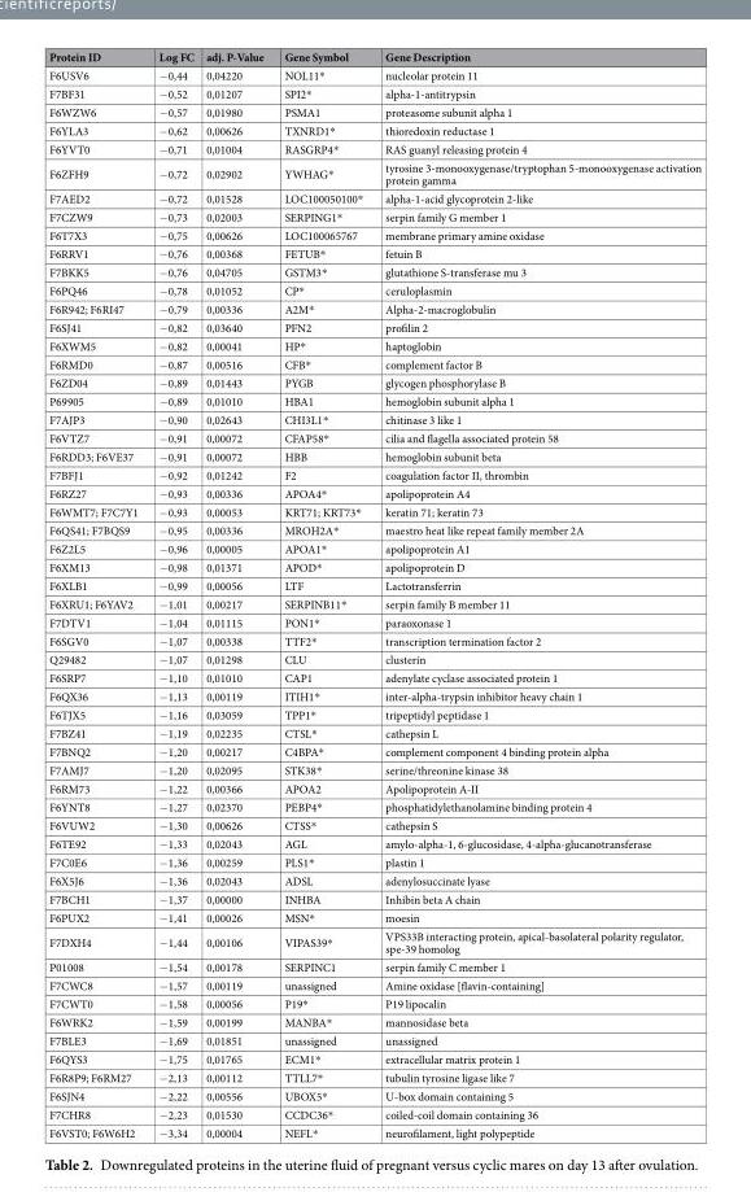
<table><thead><tr><td>Protein ID</td><td>Log FC</td><td>adj. P-Value</td><td>Gene Symbol</td><td>Gene Description</td></tr></thead><tbody><tr><td>F6USV6</td><td>−0,44</td><td>0,04220</td><td>NOL11*</td><td>nucleolar protein 11</td></tr><tr><td>F7BF31</td><td>−0,52</td><td>0,01207</td><td>SPI2*</td><td>alpha-1-antitrypsin</td></tr><tr><td>F6WZW6</td><td>−0,57</td><td>0,01980</td><td>PSMA1</td><td>proteasome subunit alpha 1</td></tr><tr><td>F6YLA3</td><td>−0,62</td><td>0,00626</td><td>TXNRD1*</td><td>thioredoxin reductase 1</td></tr><tr><td>F6YVT0</td><td>−0,71</td><td>0,01004</td><td>RASGRP4*</td><td>RAS guanyl releasing protein 4</td></tr><tr><td>F6ZFH9</td><td>−0,72</td><td>0,02902</td><td>YWHAG*</td><td>tyrosine 3-monooxygenase/tryptophan 5-monooxygenase activation protein gamma</td></tr><tr><td>F7AED2</td><td>−0,72</td><td>0,01528</td><td>LOC100050100*</td><td>alpha-1-acid glycoprotein 2-like</td></tr><tr><td>F7CZW9</td><td>−0,73</td><td>0,02003</td><td>SERPING1*</td><td>serpin family G member 1</td></tr><tr><td>F6T7X3</td><td>−0,75</td><td>0,00626</td><td>LOC100065767</td><td>membrane primary amine oxidase</td></tr><tr><td>F6RRV1</td><td>−0,76</td><td>0,00368</td><td>FETUB*</td><td>fetuin B</td></tr><tr><td>F7BKK5</td><td>−0,76</td><td>0,04705</td><td>GSTM3*</td><td>glutathione S-transferase mu 3</td></tr><tr><td>F6PQ46</td><td>−0,78</td><td>0,01052</td><td>CP*</td><td>ceruloplasmin</td></tr><tr><td>F6R942; F6RI47</td><td>−0,79</td><td>0,00336</td><td>A2M*</td><td>Alpha-2-macroglobulin</td></tr><tr><td>F6SJ41</td><td>−0,82</td><td>0,03640</td><td>PFN2</td><td>profilin 2</td></tr><tr><td>F6XWM5</td><td>−0,82</td><td>0,00041</td><td>HP*</td><td>haptoglobin</td></tr><tr><td>F6RMD0</td><td>−0,87</td><td>0,00516</td><td>CFB*</td><td>complement factor B</td></tr><tr><td>F6ZD04</td><td>−0,89</td><td>0,01443</td><td>PYGB</td><td>glycogen phosphorylase B</td></tr><tr><td>P69905</td><td>−0,89</td><td>0,01010</td><td>HBA1</td><td>hemoglobin subunit alpha 1</td></tr><tr><td>F7AJP3</td><td>−0,90</td><td>0,02643</td><td>CHI3L1*</td><td>chitinase 3 like 1</td></tr><tr><td>F6VTZ7</td><td>−0,91</td><td>0,00072</td><td>CFAP58*</td><td>cilia and flagella associated protein 58</td></tr><tr><td>F6RDD3; F6VE37</td><td>−0,91</td><td>0,00072</td><td>HBB</td><td>hemoglobin subunit beta</td></tr><tr><td>F7BFJ1</td><td>−0,92</td><td>0,01242</td><td>F2</td><td>coagulation factor II, thrombin</td></tr><tr><td>F6RZ27</td><td>−0,93</td><td>0,00336</td><td>APOA4*</td><td>apolipoprotein A4</td></tr><tr><td>F6WMT7; F7C7Y1</td><td>−0,93</td><td>0,00053</td><td>KRT71; KRT73*</td><td>keratin 71; keratin 73</td></tr><tr><td>F6QS41; F7BQS9</td><td>−0,95</td><td>0,00336</td><td>MROH2A*</td><td>maestro heat like repeat family member 2A</td></tr><tr><td>F6Z2L5</td><td>−0,96</td><td>0,00005</td><td>APOA1*</td><td>apolipoprotein A1</td></tr><tr><td>F6XM13</td><td>−0,98</td><td>0,01371</td><td>APOD*</td><td>apolipoprotein D</td></tr><tr><td>F6XLB1</td><td>−0,99</td><td>0,00056</td><td>LTF</td><td>Lactotransferrin</td></tr><tr><td>F6XRU1; F6YAV2</td><td>−1,01</td><td>0,00217</td><td>SERPINB11*</td><td>serpin family B member 11</td></tr><tr><td>F7DTV1</td><td>−1,04</td><td>0,01115</td><td>PON1*</td><td>paraoxonase 1</td></tr><tr><td>F6SGV0</td><td>−1,07</td><td>0,00338</td><td>TTF2*</td><td>transcription termination factor 2</td></tr><tr><td>Q29482</td><td>−1,07</td><td>0,01298</td><td>CLU</td><td>clusterin</td></tr><tr><td>F6SRP7</td><td>−1,10</td><td>0,01010</td><td>CAP1</td><td>adenylate cyclase associated protein 1</td></tr><tr><td>F6QX36</td><td>−1,13</td><td>0,00119</td><td>ITIH1*</td><td>inter-alpha-trypsin inhibitor heavy chain 1</td></tr><tr><td>F6TJX5</td><td>−1,16</td><td>0,03059</td><td>TPP1*</td><td>tripeptidyl peptidase 1</td></tr><tr><td>F7BZ41</td><td>−1,19</td><td>0,02235</td><td>CTSL*</td><td>cathepsin L</td></tr><tr><td>F7BNQ2</td><td>−1,20</td><td>0,00217</td><td>C4BPA*</td><td>complement component 4 binding protein alpha</td></tr><tr><td>F7AMJ7</td><td>−1,20</td><td>0,02095</td><td>STK38*</td><td>serine/threonine kinase 38</td></tr><tr><td>F6RM73</td><td>−1,22</td><td>0,00366</td><td>APOA2</td><td>Apolipoprotein A-II</td></tr><tr><td>F6YNT8</td><td>−1,27</td><td>0,02370</td><td>PEBP4*</td><td>phosphatidylethanolamine binding protein 4</td></tr><tr><td>F6VUW2</td><td>−1,30</td><td>0,00626</td><td>CTSS*</td><td>cathepsin S</td></tr><tr><td>F6TE92</td><td>−1,33</td><td>0,02043</td><td>AGL</td><td>amylo-alpha-1, 6-glucosidase, 4-alpha-glucanotransferase</td></tr><tr><td>F7C0E6</td><td>−1,36</td><td>0,00259</td><td>PLS1*</td><td>plastin 1</td></tr><tr><td>F6X5J6</td><td>−1,36</td><td>0,02043</td><td>ADSL</td><td>adenylosuccinate lyase</td></tr><tr><td>F7BCH1</td><td>−1,37</td><td>0,00000</td><td>INHBA</td><td>Inhibin beta A chain</td></tr><tr><td>F6PUX2</td><td>−1,41</td><td>0,00026</td><td>MSN*</td><td>moesin</td></tr><tr><td>F7DXH4</td><td>−1,44</td><td>0,00106</td><td>VIPAS39*</td><td>VPS33B interacting protein, apical-basolateral polarity regulator, spe-39 homolog</td></tr><tr><td>P01008</td><td>−1,54</td><td>0,00178</td><td>SERPINC1</td><td>serpin family C member 1</td></tr><tr><td>F7CWC8</td><td>−1,57</td><td>0,00119</td><td>unassigned</td><td>Amine oxidase [flavin-containing]</td></tr><tr><td>F7CWT0</td><td>−1,58</td><td>0,00056</td><td>P19*</td><td>P19 lipocalin</td></tr><tr><td>F6WRK2</td><td>−1,59</td><td>0,00199</td><td>MANBA*</td><td>mannosidase beta</td></tr><tr><td>F7BLE3</td><td>−1,69</td><td>0,01851</td><td>unassigned</td><td>unassigned</td></tr><tr><td>F6QYS3</td><td>−1,75</td><td>0,01765</td><td>ECM1*</td><td>extracellular matrix protein 1</td></tr><tr><td>F6R8P9; F6RM27</td><td>−2,13</td><td>0,00112</td><td>TTLL7*</td><td>tubulin tyrosine ligase like 7</td></tr><tr><td>F6SJN4</td><td>−2,22</td><td>0,00556</td><td>UBOX5*</td><td>U-box domain containing 5</td></tr><tr><td>F7CHR8</td><td>−2,23</td><td>0,01530</td><td>CCDC36*</td><td>coiled-coil domain containing 36</td></tr><tr><td>F6VST0; F6W6H2</td><td>−3,34</td><td>0,00004</td><td>NEFL*</td><td>neurofilament, light polypeptide</td></tr></tbody></table>